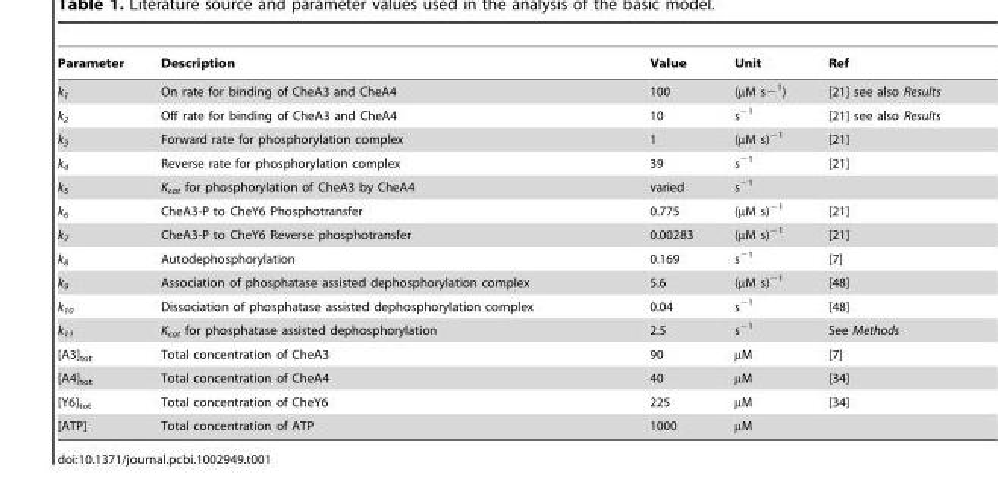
<table><thead><tr><td>Parameter</td><td>Description</td><td>Value</td><td>Unit</td><td>Ref</td></tr></thead><tbody><tr><td>k<sub>1</sub></td><td>On rate for binding of CheA3 and CheA4</td><td>100</td><td>(µM s−<sup>1</sup>)</td><td>[21] see also Results</td></tr><tr><td>k<sub>2</sub></td><td>Off rate for binding of CheA3 and CheA4</td><td>10</td><td>s<sup>−1</sup></td><td>[21] see also Results</td></tr><tr><td>k<sub>3</sub></td><td>Forward rate for phosphorylation complex</td><td>1</td><td>(µM s)<sup>−1</sup></td><td>[21]</td></tr><tr><td>k<sub>4</sub></td><td>Reverse rate for phosphorylation complex</td><td>39</td><td>s<sup>−1</sup></td><td>[21]</td></tr><tr><td>k<sub>5</sub></td><td>K<sub>cat</sub> for phosphorylation of CheA3 by CheA4</td><td>varied</td><td>s<sup>−1</sup></td><td></td></tr><tr><td>k<sub>6</sub></td><td>CheA3-P to CheY6 Phosphotransfer</td><td>0.775</td><td>(µM s)<sup>−1</sup></td><td>[21]</td></tr><tr><td>k<sub>7</sub></td><td>CheA3-P to CheY6 Reverse phosphotransfer</td><td>0.00283</td><td>(µM s)<sup>−1</sup></td><td>[21]</td></tr><tr><td>k<sub>8</sub></td><td>Autodephosphorylation</td><td>0.169</td><td>s<sup>−1</sup></td><td>[7]</td></tr><tr><td>k<sub>9</sub></td><td>Association of phosphatase assisted dephosphorylation complex</td><td>5.6</td><td>(µM s)<sup>−1</sup></td><td>[48]</td></tr><tr><td>k<sub>10</sub></td><td>Dissociation of phosphatase assisted dephosphorylation complex</td><td>0.04</td><td>s<sup>−1</sup></td><td>[48]</td></tr><tr><td>k<sub>11</sub></td><td>K<sub>cat</sub> for phosphatase assisted dephosphorylation</td><td>2.5</td><td>s<sup>−1</sup></td><td>See Methods</td></tr><tr><td>[A3]<sub>tot</sub></td><td>Total concentration of CheA3</td><td>90</td><td>µM</td><td>[7]</td></tr><tr><td>[A4]<sub>tot</sub></td><td>Total concentration of CheA4</td><td>40</td><td>µM</td><td>[34]</td></tr><tr><td>[Y6]<sub>tot</sub></td><td>Total concentration of CheY6</td><td>225</td><td>µM</td><td>[34]</td></tr><tr><td>[ATP]</td><td>Total concentration of ATP</td><td>1000</td><td>µM</td><td></td></tr></tbody></table>